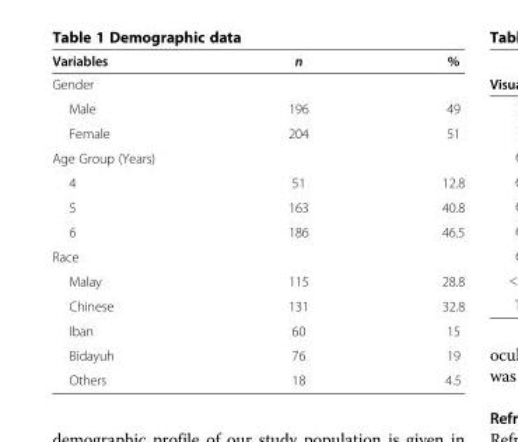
<table><thead><tr><td>Variables</td><td>n</td><td>%</td></tr></thead><tbody><tr><td colspan="3">Gender</td></tr><tr><td>Male</td><td>196</td><td>49</td></tr><tr><td>Female</td><td>204</td><td>51</td></tr><tr><td colspan="3">Age Group (Years)</td></tr><tr><td>4</td><td>51</td><td>12.8</td></tr><tr><td>5</td><td>163</td><td>40.8</td></tr><tr><td>6</td><td>186</td><td>46.5</td></tr><tr><td colspan="3">Race</td></tr><tr><td>Malay</td><td>115</td><td>28.8</td></tr><tr><td>Chinese</td><td>131</td><td>32.8</td></tr><tr><td>Iban</td><td>60</td><td>15</td></tr><tr><td>Bidayuh</td><td>76</td><td>19</td></tr><tr><td>Others</td><td>18</td><td>4.5</td></tr></tbody></table>